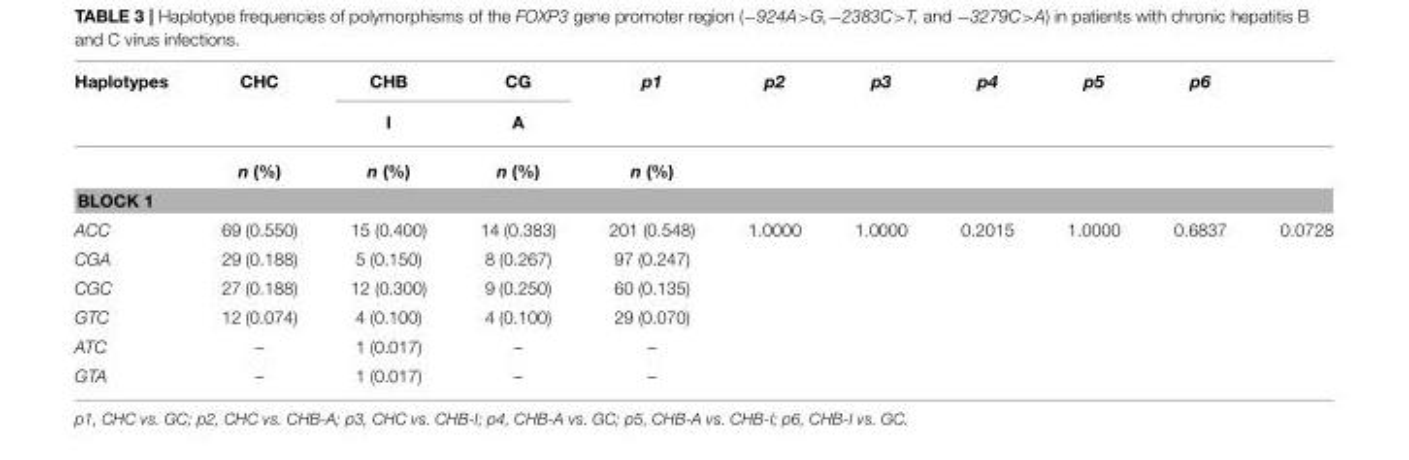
<table><thead><tr><td rowspan="2">Haplotypes</td><td rowspan="2">CHC</td><td rowspan="2">CHB I</td><td rowspan="2">CG A</td><td rowspan="2">p1</td><td rowspan="2">p2</td><td rowspan="2">p3</td><td rowspan="2">p4</td><td rowspan="2">p5</td><td rowspan="2">p6</td><td rowspan="2"></td></tr><tr></tr></thead><tbody><tr><td></td><td>n (%)</td><td>n (%)</td><td>n (%)</td><td>n (%)</td><td></td><td></td><td></td><td></td><td></td><td></td></tr><tr><td colspan="11">BLOCK 1</td></tr><tr><td>ACC</td><td>69 (0.550)</td><td>15 (0.400)</td><td>14 (0.383)</td><td>201 (0.548)</td><td>1.0000</td><td>1.0000</td><td>0.2015</td><td>1.0000</td><td>0.6837</td><td>0.0728</td></tr><tr><td>CGA</td><td>29 (0.188)</td><td>5 (0.150)</td><td>8 (0.267)</td><td>97 (0.247)</td><td></td><td></td><td></td><td></td><td></td><td></td></tr><tr><td>CGC</td><td>27 (0.188)</td><td>12 (0.300)</td><td>9 (0.250)</td><td>60 (0.135)</td><td></td><td></td><td></td><td></td><td></td><td></td></tr><tr><td>GTC</td><td>12 (0.074)</td><td>4 (0.100)</td><td>4 (0.100)</td><td>29 (0.070)</td><td></td><td></td><td></td><td></td><td></td><td></td></tr><tr><td>ATC</td><td>–</td><td>1 (0.017)</td><td>–</td><td>–</td><td></td><td></td><td></td><td></td><td></td><td></td></tr><tr><td>GTA</td><td>–</td><td>1 (0.017)</td><td>–</td><td>–</td><td></td><td></td><td></td><td></td><td></td><td></td></tr></tbody></table>